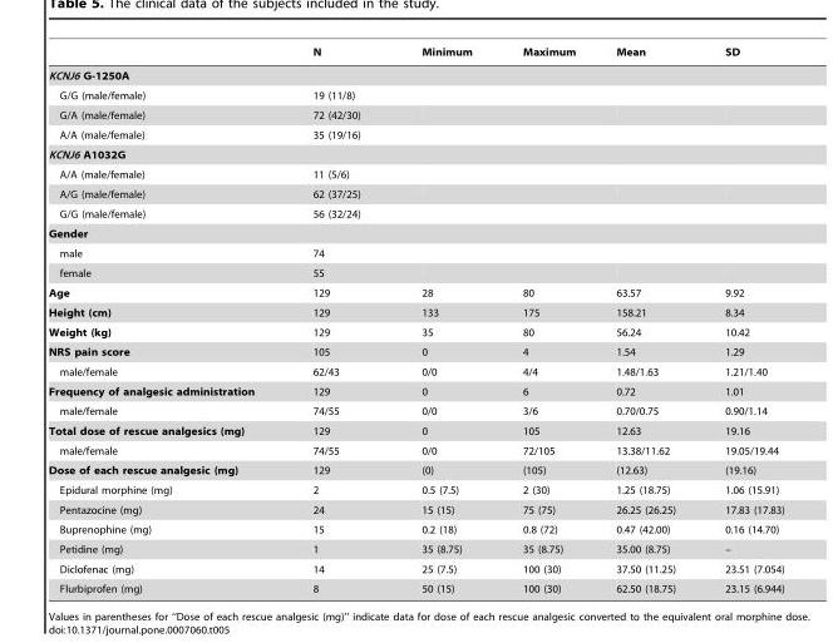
<table><thead><tr><td></td><td>N</td><td>Minimum</td><td>Maximum</td><td>Mean</td><td>SD</td></tr></thead><tbody><tr><td colspan="6">KCNJ6 G-1250A</td></tr><tr><td>G/G (male/female)</td><td>19 (11/8)</td><td></td><td></td><td></td><td></td></tr><tr><td>G/A (male/female)</td><td>72 (42/30)</td><td></td><td></td><td></td><td></td></tr><tr><td>A/A (male/female)</td><td>35 (19/16)</td><td></td><td></td><td></td><td></td></tr><tr><td colspan="6">KCNJ6 A1032G</td></tr><tr><td>A/A (male/female)</td><td>11 (5/6)</td><td></td><td></td><td></td><td></td></tr><tr><td>A/G (male/female)</td><td>62 (37/25)</td><td></td><td></td><td></td><td></td></tr><tr><td>G/G (male/female)</td><td>56 (32/24)</td><td></td><td></td><td></td><td></td></tr><tr><td colspan="6">Gender</td></tr><tr><td>male</td><td>74</td><td></td><td></td><td></td><td></td></tr><tr><td>female</td><td>55</td><td></td><td></td><td></td><td></td></tr><tr><td>Age</td><td>129</td><td>28</td><td>80</td><td>63.57</td><td>9.92</td></tr><tr><td>Height (cm)</td><td>129</td><td>133</td><td>175</td><td>158.21</td><td>8.34</td></tr><tr><td>Weight (kg)</td><td>129</td><td>35</td><td>80</td><td>56.24</td><td>10.42</td></tr><tr><td>NRS pain score</td><td>105</td><td>0</td><td>4</td><td>1.54</td><td>1.29</td></tr><tr><td>male/female</td><td>62/43</td><td>0/0</td><td>4/4</td><td>1.48/1.63</td><td>1.21/1.40</td></tr><tr><td>Frequency of analgesic administration</td><td>129</td><td>0</td><td>6</td><td>0.72</td><td>1.01</td></tr><tr><td>male/female</td><td>74/55</td><td>0/0</td><td>3/6</td><td>0.70/0.75</td><td>0.90/1.14</td></tr><tr><td>Total dose of rescue analgesics (mg)</td><td>129</td><td>0</td><td>105</td><td>12.63</td><td>19.16</td></tr><tr><td>male/female</td><td>74/55</td><td>0/0</td><td>72/105</td><td>13.38/11.62</td><td>19.05/19.44</td></tr><tr><td>Dose of each rescue analgesic (mg)</td><td>129</td><td>(0)</td><td>(105)</td><td>(12.63)</td><td>(19.16)</td></tr><tr><td>Epidural morphine (mg)</td><td>2</td><td>0.5 (7.5)</td><td>2 (30)</td><td>1.25 (18.75)</td><td>1.06 (15.91)</td></tr><tr><td>Pentazocine (mg)</td><td>24</td><td>15 (15)</td><td>75 (75)</td><td>26.25 (26.25)</td><td>17.83 (17.83)</td></tr><tr><td>Buprenophine (mg)</td><td>15</td><td>0.2 (18)</td><td>0.8 (72)</td><td>0.47 (42.00)</td><td>0.16 (14.70)</td></tr><tr><td>Petidine (mg)</td><td>1</td><td>35 (8.75)</td><td>35 (8.75)</td><td>35.00 (8.75)</td><td>–</td></tr><tr><td>Diclofenac (mg)</td><td>14</td><td>25 (7.5)</td><td>100 (30)</td><td>37.50 (11.25)</td><td>23.51 (7.054)</td></tr><tr><td>Flurbiprofen (mg)</td><td>8</td><td>50 (15)</td><td>100 (30)</td><td>62.50 (18.75)</td><td>23.15 (6.944)</td></tr></tbody></table>